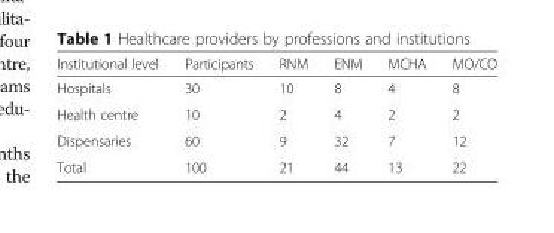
<table><thead><tr><td>Institutional level</td><td>Participants</td><td>RNM</td><td>ENM</td><td>MCHA</td><td>MO/CO</td></tr></thead><tbody><tr><td>Hospitals</td><td>30</td><td>10</td><td>8</td><td>4</td><td>8</td></tr><tr><td>Health centre</td><td>10</td><td>2</td><td>4</td><td>2</td><td>2</td></tr><tr><td>Dispensaries</td><td>60</td><td>9</td><td>32</td><td>7</td><td>12</td></tr><tr><td>Total</td><td>100</td><td>21</td><td>44</td><td>13</td><td>22</td></tr></tbody></table>